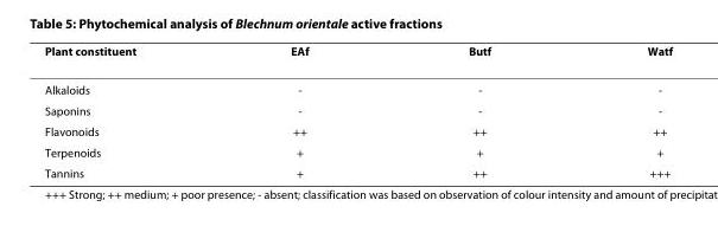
<table><thead><tr><td>Plant constituent</td><td>EAf</td><td>Butf</td><td>Watf</td></tr></thead><tbody><tr><td>Alkaloids</td><td>-</td><td>-</td><td>-</td></tr><tr><td>Saponins</td><td>-</td><td>-</td><td>-</td></tr><tr><td>Flavonoids</td><td>++</td><td>++</td><td>++</td></tr><tr><td>Terpenoids</td><td>+</td><td>+</td><td>+</td></tr><tr><td>Tannins</td><td>+</td><td>++</td><td>+++</td></tr></tbody></table>